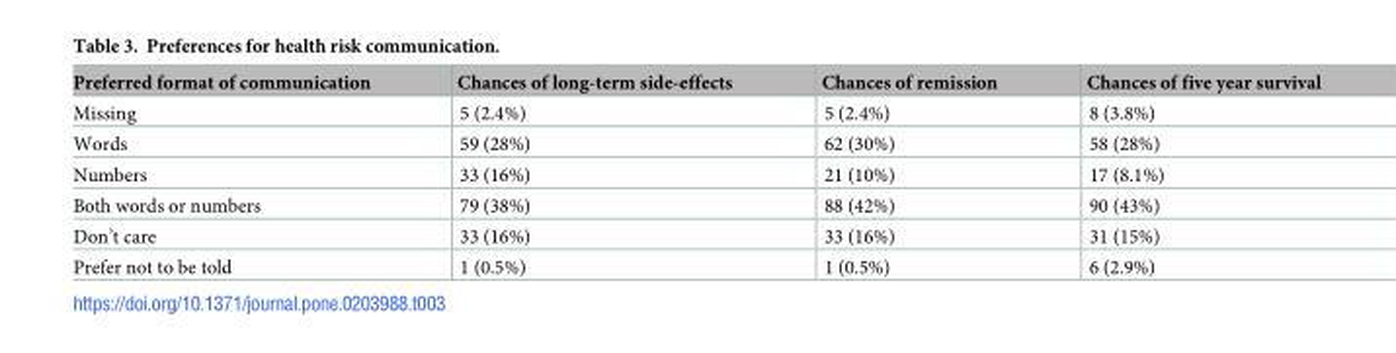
<table><thead><tr><td>Preferred format of communication</td><td>Chances of long-term side-effects</td><td>Chances of remission</td><td>Chances of five year survival</td></tr></thead><tbody><tr><td>Missing</td><td>5 (2.4%)</td><td>5 (2.4%)</td><td>8 (3.8%)</td></tr><tr><td>Words</td><td>59 (28%)</td><td>62 (30%)</td><td>58 (28%)</td></tr><tr><td>Numbers</td><td>33 (16%)</td><td>21 (10%)</td><td>17 (8.1%)</td></tr><tr><td>Both words or numbers</td><td>79 (38%)</td><td>88 (42%)</td><td>90 (43%)</td></tr><tr><td>Don’t care</td><td>33 (16%)</td><td>33 (16%)</td><td>31 (15%)</td></tr><tr><td>Prefer not to be told</td><td>1 (0.5%)</td><td>1 (0.5%)</td><td>6 (2.9%)</td></tr></tbody></table>